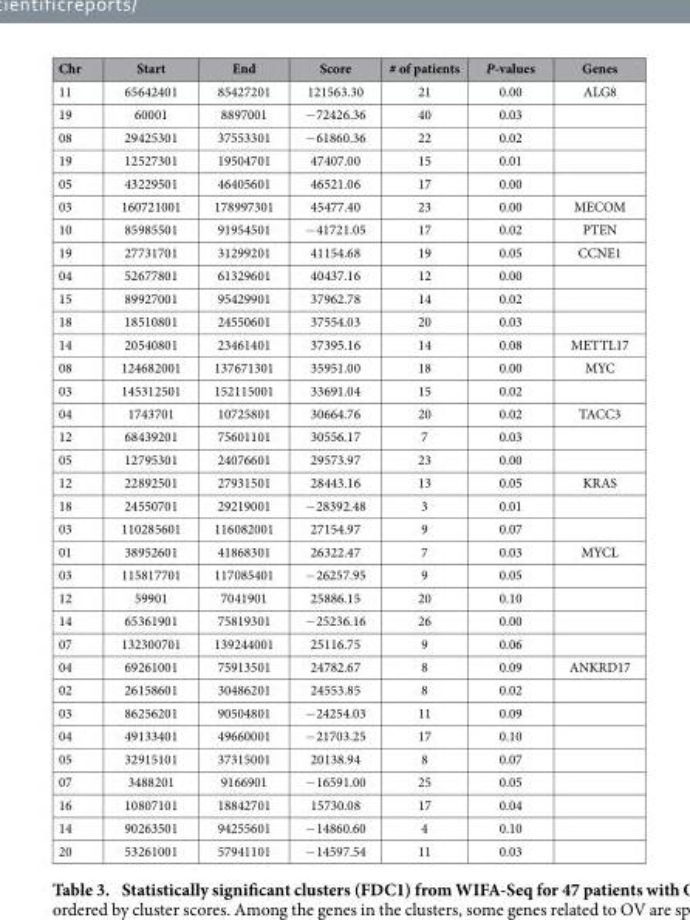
<table><thead><tr><td>Chr</td><td>Start</td><td>End</td><td>Score</td><td># of patients</td><td>P-values</td><td>Genes</td></tr></thead><tbody><tr><td>11</td><td>65642401</td><td>85427201</td><td>121563.30</td><td>21</td><td>0.00</td><td>ALG8</td></tr><tr><td>19</td><td>60001</td><td>8897001</td><td>− 72426.36</td><td>40</td><td>0.03</td><td></td></tr><tr><td>08</td><td>29425301</td><td>37553301</td><td>− 61860.36</td><td>22</td><td>0.02</td><td></td></tr><tr><td>19</td><td>12527301</td><td>19504701</td><td>47407.00</td><td>15</td><td>0.01</td><td></td></tr><tr><td>05</td><td>43229501</td><td>46405601</td><td>46521.06</td><td>17</td><td>0.00</td><td></td></tr><tr><td>03</td><td>160721001</td><td>178997301</td><td>45477.40</td><td>23</td><td>0.00</td><td>MECOM</td></tr><tr><td>10</td><td>85985501</td><td>91954501</td><td>− 41721.05</td><td>17</td><td>0.02</td><td>PTEN</td></tr><tr><td>19</td><td>27731701</td><td>31299201</td><td>41154.68</td><td>19</td><td>0.05</td><td>CCNE1</td></tr><tr><td>04</td><td>52677801</td><td>61329601</td><td>40437.16</td><td>12</td><td>0.00</td><td></td></tr><tr><td>15</td><td>89927001</td><td>95429901</td><td>37962.78</td><td>14</td><td>0.02</td><td></td></tr><tr><td>18</td><td>18510801</td><td>24550601</td><td>37554.03</td><td>20</td><td>0.03</td><td></td></tr><tr><td>14</td><td>20540801</td><td>23461401</td><td>37395.16</td><td>14</td><td>0.08</td><td>METTL17</td></tr><tr><td>08</td><td>124682001</td><td>137671301</td><td>35951.00</td><td>18</td><td>0.00</td><td>MYC</td></tr><tr><td>03</td><td>145312501</td><td>152115001</td><td>33691.04</td><td>15</td><td>0.02</td><td></td></tr><tr><td>04</td><td>1743701</td><td>10725801</td><td>30664.76</td><td>20</td><td>0.02</td><td>TACC3</td></tr><tr><td>12</td><td>68439201</td><td>75601101</td><td>30556.17</td><td>7</td><td>0.03</td><td></td></tr><tr><td>05</td><td>12795301</td><td>24076601</td><td>29573.97</td><td>23</td><td>0.00</td><td></td></tr><tr><td>12</td><td>22892501</td><td>27931501</td><td>28443.16</td><td>13</td><td>0.05</td><td>KRAS</td></tr><tr><td>18</td><td>24550701</td><td>29219001</td><td>− 28392.48</td><td>3</td><td>0.01</td><td></td></tr><tr><td>03</td><td>110285601</td><td>116082001</td><td>27154.97</td><td>9</td><td>0.07</td><td></td></tr><tr><td>01</td><td>38952601</td><td>41868301</td><td>26322.47</td><td>7</td><td>0.03</td><td>MYCL</td></tr><tr><td>03</td><td>115817701</td><td>117085401</td><td>− 26257.95</td><td>9</td><td>0.05</td><td></td></tr><tr><td>12</td><td>59901</td><td>7041901</td><td>25886.15</td><td>20</td><td>0.10</td><td></td></tr><tr><td>14</td><td>65361901</td><td>75819301</td><td>− 25236.16</td><td>26</td><td>0.00</td><td></td></tr><tr><td>07</td><td>132300701</td><td>139244001</td><td>25116.75</td><td>9</td><td>0.06</td><td></td></tr><tr><td>04</td><td>69261001</td><td>75913501</td><td>24782.67</td><td>8</td><td>0.09</td><td>ANKRD17</td></tr><tr><td>02</td><td>26158601</td><td>30486201</td><td>24553.85</td><td>8</td><td>0.02</td><td></td></tr><tr><td>03</td><td>86256201</td><td>90504801</td><td>− 24254.03</td><td>11</td><td>0.09</td><td></td></tr><tr><td>04</td><td>49133401</td><td>49660001</td><td>− 21703.25</td><td>17</td><td>0.10</td><td></td></tr><tr><td>05</td><td>32915101</td><td>37315001</td><td>20138.94</td><td>8</td><td>0.07</td><td></td></tr><tr><td>07</td><td>3488201</td><td>9166901</td><td>− 16591.00</td><td>25</td><td>0.05</td><td></td></tr><tr><td>16</td><td>10807101</td><td>18842701</td><td>15730.08</td><td>17</td><td>0.04</td><td></td></tr><tr><td>14</td><td>90263501</td><td>94255601</td><td>− 14860.60</td><td>4</td><td>0.10</td><td></td></tr><tr><td>20</td><td>53261001</td><td>57941101</td><td>− 14597.54</td><td>11</td><td>0.03</td><td></td></tr></tbody></table>